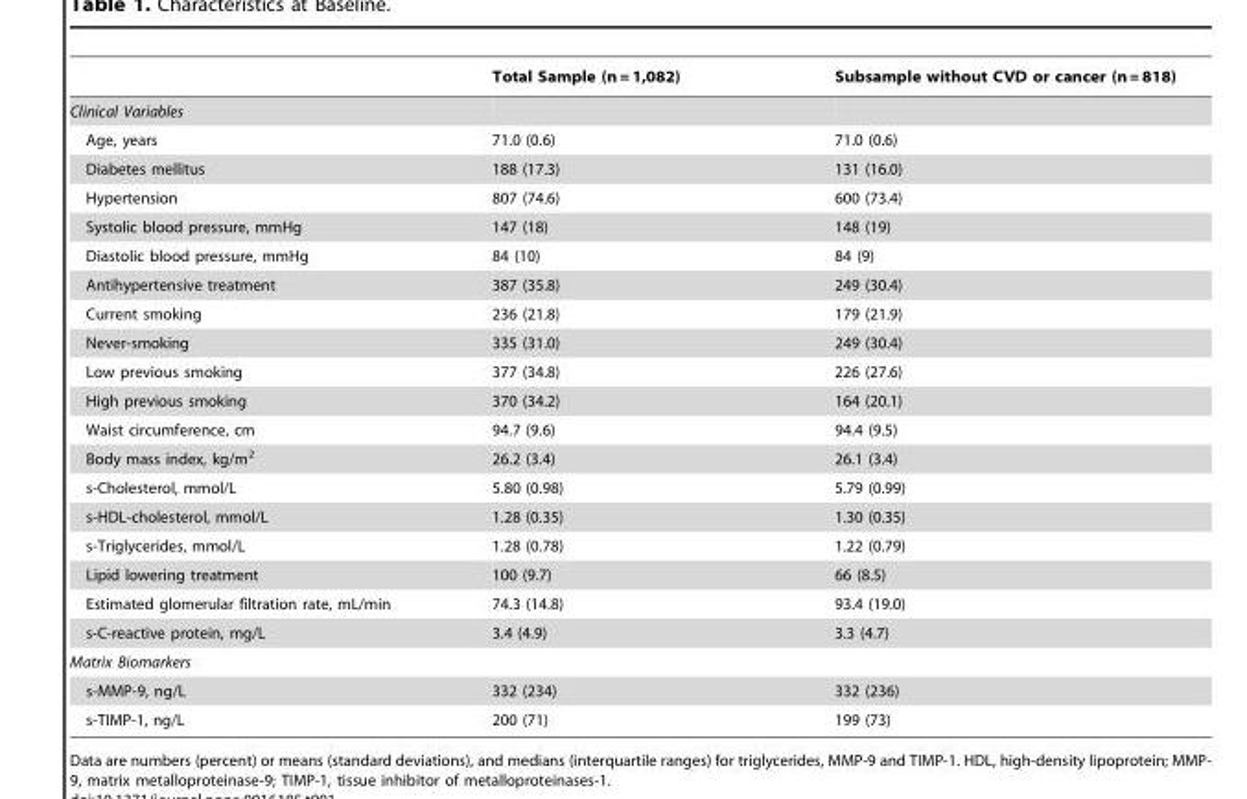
<table><thead><tr><td></td><td>Total Sample (n = 1,082)</td><td>Subsample without CVD or cancer (n = 818)</td></tr></thead><tbody><tr><td colspan="3">Clinical Variables</td></tr><tr><td>Age, years</td><td>71.0 (0.6)</td><td>71.0 (0.6)</td></tr><tr><td>Diabetes mellitus</td><td>188 (17.3)</td><td>131 (16.0)</td></tr><tr><td>Hypertension</td><td>807 (74.6)</td><td>600 (73.4)</td></tr><tr><td>Systolic blood pressure, mmHg</td><td>147 (18)</td><td>148 (19)</td></tr><tr><td>Diastolic blood pressure, mmHg</td><td>84 (10)</td><td>84 (9)</td></tr><tr><td>Antihypertensive treatment</td><td>387 (35.8)</td><td>249 (30.4)</td></tr><tr><td>Current smoking</td><td>236 (21.8)</td><td>179 (21.9)</td></tr><tr><td>Never-smoking</td><td>335 (31.0)</td><td>249 (30.4)</td></tr><tr><td>Low previous smoking</td><td>377 (34.8)</td><td>226 (27.6)</td></tr><tr><td>High previous smoking</td><td>370 (34.2)</td><td>164 (20.1)</td></tr><tr><td>Waist circumference, cm</td><td>94.7 (9.6)</td><td>94.4 (9.5)</td></tr><tr><td>Body mass index, kg/m<sup>2</sup></td><td>26.2 (3.4)</td><td>26.1 (3.4)</td></tr><tr><td>s-Cholesterol, mmol/L</td><td>5.80 (0.98)</td><td>5.79 (0.99)</td></tr><tr><td>s-HDL-cholesterol, mmol/L</td><td>1.28 (0.35)</td><td>1.30 (0.35)</td></tr><tr><td>s-Triglycerides, mmol/L</td><td>1.28 (0.78)</td><td>1.22 (0.79)</td></tr><tr><td>Lipid lowering treatment</td><td>100 (9.7)</td><td>66 (8.5)</td></tr><tr><td>Estimated glomerular filtration rate, mL/min</td><td>74.3 (14.8)</td><td>93.4 (19.0)</td></tr><tr><td>s-C-reactive protein, mg/L</td><td>3.4 (4.9)</td><td>3.3 (4.7)</td></tr><tr><td colspan="3">Matrix Biomarkers</td></tr><tr><td>s-MMP-9, ng/L</td><td>332 (234)</td><td>332 (236)</td></tr><tr><td>s-TIMP-1, ng/L</td><td>200 (71)</td><td>199 (73)</td></tr></tbody></table>